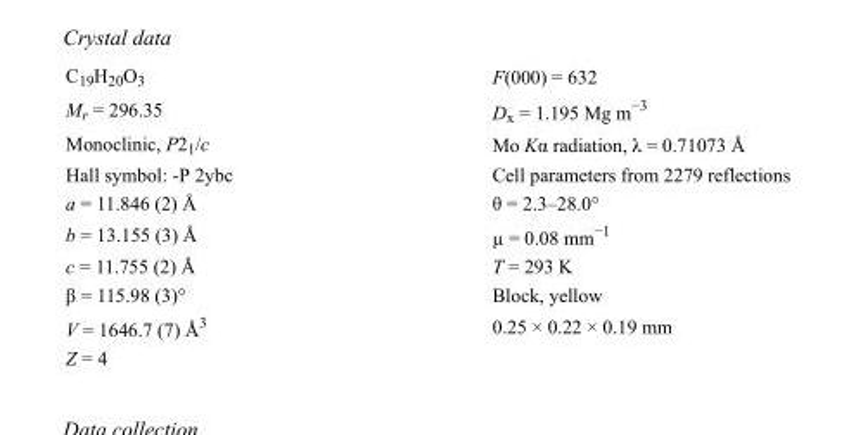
<table><tbody><tr><td>C<sub>19</sub>H<sub>20</sub>O<sub>3</sub></td><td>F(000) = 632</td></tr><tr><td>M<sub>r</sub> = 296.35</td><td>D<sub>x</sub> = 1.195 Mg m<sup>−3</sup></td></tr><tr><td>Monoclinic, P2<sub>1</sub>/c</td><td>Mo Kα radiation, λ = 0.71073 Å</td></tr><tr><td>Hall symbol: -P 2ybc</td><td>Cell parameters from 2279 reflections</td></tr><tr><td>a = 11.846 (2) Å</td><td>θ = 2.3–28.0°</td></tr><tr><td>b = 13.155 (3) Å</td><td>µ = 0.08 mm<sup>−1</sup></td></tr><tr><td>c = 11.755 (2) Å</td><td>T = 293 K</td></tr><tr><td>β = 115.98 (3)°</td><td>Block, yellow</td></tr><tr><td>V = 1646.7 (7) Å<sup>3</sup></td><td>0.25 × 0.22 × 0.19 mm</td></tr><tr><td>Z = 4</td><td></td></tr></tbody></table>